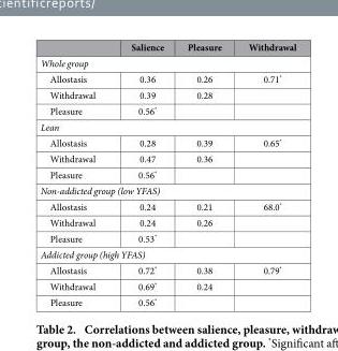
<table><thead><tr><td></td><td>Salience</td><td>Pleasure</td><td>Withdrawal</td></tr></thead><tbody><tr><td colspan="4">Whole group</td></tr><tr><td>Allostasis</td><td>0.36</td><td>0.26</td><td>0.71*</td></tr><tr><td>Withdrawal</td><td>0.39</td><td>0.28</td><td></td></tr><tr><td>Pleasure</td><td>0.56*</td><td></td><td></td></tr><tr><td colspan="4">Lean</td></tr><tr><td>Allostasis</td><td>0.28</td><td>0.39</td><td>0.65*</td></tr><tr><td>Withdrawal</td><td>0.47</td><td>0.36</td><td></td></tr><tr><td>Pleasure</td><td>0.56*</td><td></td><td></td></tr><tr><td colspan="4">Non-addicted group (low YFAS)</td></tr><tr><td>Allostasis</td><td>0.24</td><td>0.21</td><td>68.0*</td></tr><tr><td>Withdrawal</td><td>0.24</td><td>0.26</td><td></td></tr><tr><td>Pleasure</td><td>0.53*</td><td></td><td></td></tr><tr><td colspan="4">Addicted group (high YFAS)</td></tr><tr><td>Allostasis</td><td>0.72*</td><td>0.38</td><td>0.79*</td></tr><tr><td>Withdrawal</td><td>0.69*</td><td>0.24</td><td></td></tr><tr><td>Pleasure</td><td>0.56*</td><td></td><td></td></tr></tbody></table>